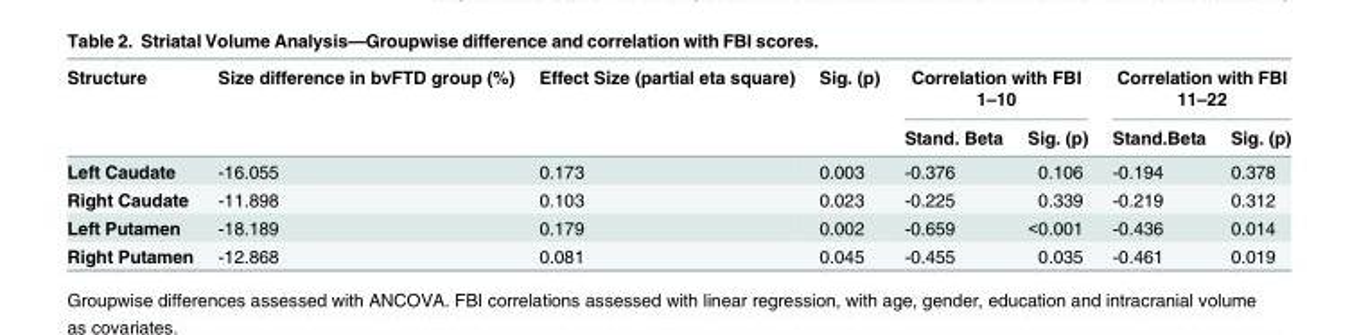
<table><thead><tr><td rowspan="2">Structure</td><td rowspan="2">Size difference in bvFTD group (%)</td><td rowspan="2">Effect Size (partial eta square)</td><td rowspan="2">Sig. (p)</td><td colspan="2">Correlation with FBI 1–10</td><td colspan="2">Correlation with FBI 11–22</td></tr><tr><td>Stand. Beta</td><td>Sig. (p)</td><td>Stand.Beta</td><td>Sig. (p)</td></tr></thead><tbody><tr><td>Left Caudate</td><td>-16.055</td><td>0.173</td><td>0.003</td><td>-0.376</td><td>0.106</td><td>-0.194</td><td>0.378</td></tr><tr><td>Right Caudate</td><td>-11.898</td><td>0.103</td><td>0.023</td><td>-0.225</td><td>0.339</td><td>-0.219</td><td>0.312</td></tr><tr><td>Left Putamen</td><td>-18.189</td><td>0.179</td><td>0.002</td><td>-0.659</td><td>&lt;0.001</td><td>-0.436</td><td>0.014</td></tr><tr><td>Right Putamen</td><td>-12.868</td><td>0.081</td><td>0.045</td><td>-0.455</td><td>0.035</td><td>-0.461</td><td>0.019</td></tr></tbody></table>